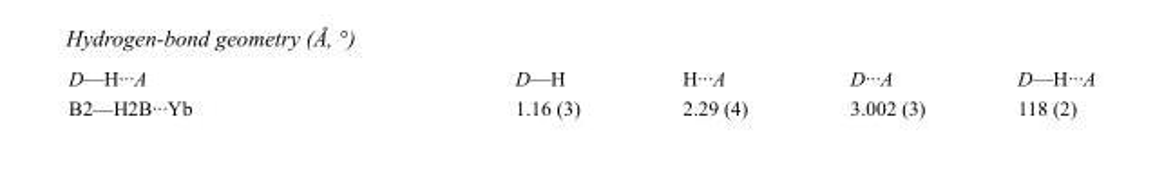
<table><tbody><tr><td>D—H···A</td><td>D—H</td><td>H···A</td><td>D···A</td><td>D—H···A</td></tr><tr><td>B2—H2B···Yb</td><td>1.16 (3)</td><td>2.29 (4)</td><td>3.002 (3)</td><td>118 (2)</td></tr></tbody></table>